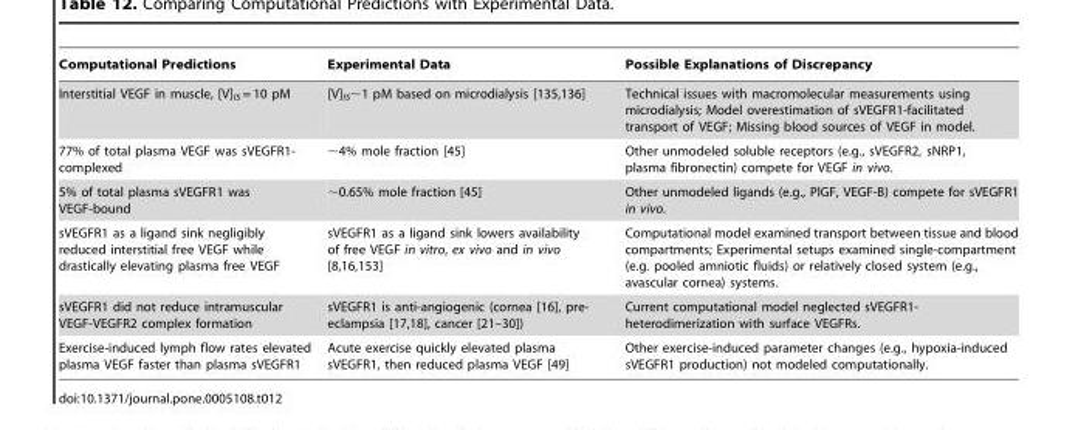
<table><thead><tr><td>Computational Predictions</td><td>Experimental Data</td><td>Possible Explanations of Discrepancy</td></tr></thead><tbody><tr><td>Interstitial VEGF in muscle, [V]<sub>IS</sub> = 10 pM</td><td>[V]IS,1 pM based on microdialysis [135,136]</td><td>Technical issues with macromolecular measurements using microdialysis; Model overestimation of sVEGFR1-facilitated transport of VEGF; Missing blood sources of VEGF in model.</td></tr><tr><td>77% of total plasma VEGF was sVEGFR1- complexed</td><td>∼4% mole fraction [45]</td><td>Other unmodeled soluble receptors (e.g., sVEGFR2, sNRP1, plasma fibronectin) compete for VEGF in vivo.</td></tr><tr><td>5% of total plasma sVEGFR1 was VEGF-bound</td><td>∼0.65% mole fraction [45]</td><td>Other unmodeled ligands (e.g., PlGF, VEGF-B) compete for sVEGFR1 in vivo.</td></tr><tr><td>sVEGFR1 as a ligand sink negligibly reduced interstitial free VEGF while drastically elevating plasma free VEGF</td><td>sVEGFR1 as a ligand sink lowers availability of free VEGF in vitro, ex vivo and in vivo [8,16,153]</td><td>Computational model examined transport between tissue and blood compartments; Experimental setups examined single-compartment (e.g. pooled amniotic fluids) or relatively closed system (e.g., avascular cornea) systems.</td></tr><tr><td>sVEGFR1 did not reduce intramuscular VEGF-VEGFR2 complex formation</td><td>sVEGFR1 is anti-angiogenic (cornea [16], pre- eclampsia [17,18], cancer [21–30])</td><td>Current computational model neglected sVEGFR1- heterodimerization with surface VEGFRs.</td></tr><tr><td>Exercise-induced lymph flow rates elevated plasma VEGF faster than plasma sVEGFR1</td><td>Acute exercise quickly elevated plasma sVEGFR1, then reduced plasma VEGF [49]</td><td>Other exercise-induced parameter changes (e.g., hypoxia-induced sVEGFR1 production) not modeled computationally.</td></tr></tbody></table>